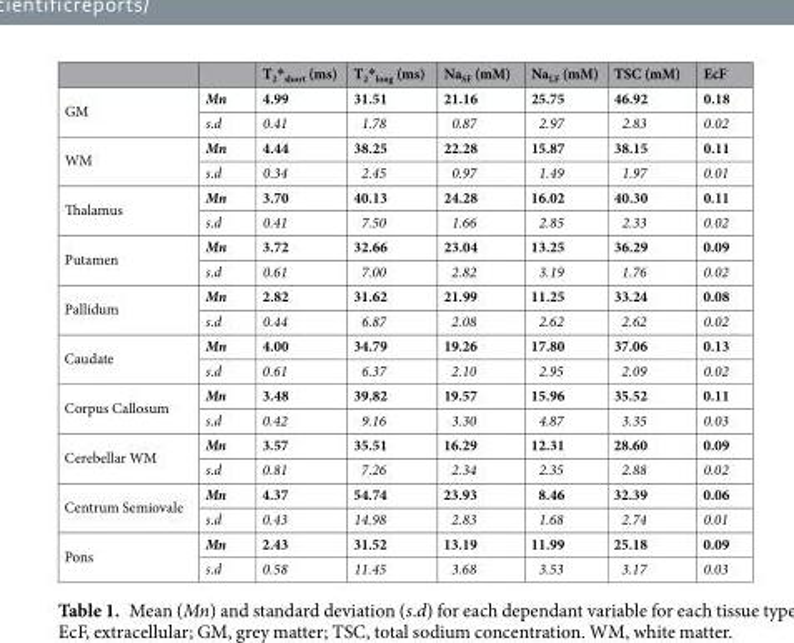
<table><thead><tr><td></td><td></td><td>T<sub>2</sub>*<sub>short</sub> (ms)</td><td>T<sub>2</sub>*<sub>long</sub> (ms)</td><td>Na<sub>SF</sub> (mM)</td><td>Na<sub>LF</sub> (mM)</td><td>TSC (mM)</td><td>EcF</td></tr></thead><tbody><tr><td rowspan="2">GM</td><td>Mn</td><td>4.99</td><td>31.51</td><td>21.16</td><td>25.75</td><td>46.92</td><td>0.18</td></tr><tr><td>s.d</td><td>0.41</td><td>1.78</td><td>0.87</td><td>2.97</td><td>2.83</td><td>0.02</td></tr><tr><td rowspan="2">WM</td><td>Mn</td><td>4.44</td><td>38.25</td><td>22.28</td><td>15.87</td><td>38.15</td><td>0.11</td></tr><tr><td>s.d</td><td>0.34</td><td>2.45</td><td>0.97</td><td>1.49</td><td>1.97</td><td>0.01</td></tr><tr><td rowspan="2">Thalamus</td><td>Mn</td><td>3.70</td><td>40.13</td><td>24.28</td><td>16.02</td><td>40.30</td><td>0.11</td></tr><tr><td>s.d</td><td>0.41</td><td>7.50</td><td>1.66</td><td>2.85</td><td>2.33</td><td>0.02</td></tr><tr><td rowspan="2">Putamen</td><td>Mn</td><td>3.72</td><td>32.66</td><td>23.04</td><td>13.25</td><td>36.29</td><td>0.09</td></tr><tr><td>s.d</td><td>0.61</td><td>7.00</td><td>2.82</td><td>3.19</td><td>1.76</td><td>0.02</td></tr><tr><td rowspan="2">Pallidum</td><td>Mn</td><td>2.82</td><td>31.62</td><td>21.99</td><td>11.25</td><td>33.24</td><td>0.08</td></tr><tr><td>s.d</td><td>0.44</td><td>6.87</td><td>2.08</td><td>2.62</td><td>2.62</td><td>0.02</td></tr><tr><td rowspan="2">Caudate</td><td>Mn</td><td>4.00</td><td>34.79</td><td>19.26</td><td>17.80</td><td>37.06</td><td>0.13</td></tr><tr><td>s.d</td><td>0.61</td><td>6.37</td><td>2.10</td><td>2.95</td><td>2.09</td><td>0.02</td></tr><tr><td rowspan="2">Corpus Callosum</td><td>Mn</td><td>3.48</td><td>39.82</td><td>19.57</td><td>15.96</td><td>35.52</td><td>0.11</td></tr><tr><td>s.d</td><td>0.42</td><td>9.16</td><td>3.30</td><td>4.87</td><td>3.35</td><td>0.03</td></tr><tr><td rowspan="2">Cerebellar WM</td><td>Mn</td><td>3.57</td><td>35.51</td><td>16.29</td><td>12.31</td><td>28.60</td><td>0.09</td></tr><tr><td>s.d</td><td>0.81</td><td>7.26</td><td>2.34</td><td>2.35</td><td>2.88</td><td>0.02</td></tr><tr><td rowspan="2">Centrum Semiovale</td><td>Mn</td><td>4.37</td><td>54.74</td><td>23.93</td><td>8.46</td><td>32.39</td><td>0.06</td></tr><tr><td>s.d</td><td>0.43</td><td>14.98</td><td>2.83</td><td>1.68</td><td>2.74</td><td>0.01</td></tr><tr><td rowspan="2">Pons</td><td>Mn</td><td>2.43</td><td>31.52</td><td>13.19</td><td>11.99</td><td>25.18</td><td>0.09</td></tr><tr><td>s.d</td><td>0.58</td><td>11.45</td><td>3.68</td><td>3.53</td><td>3.17</td><td>0.03</td></tr></tbody></table>